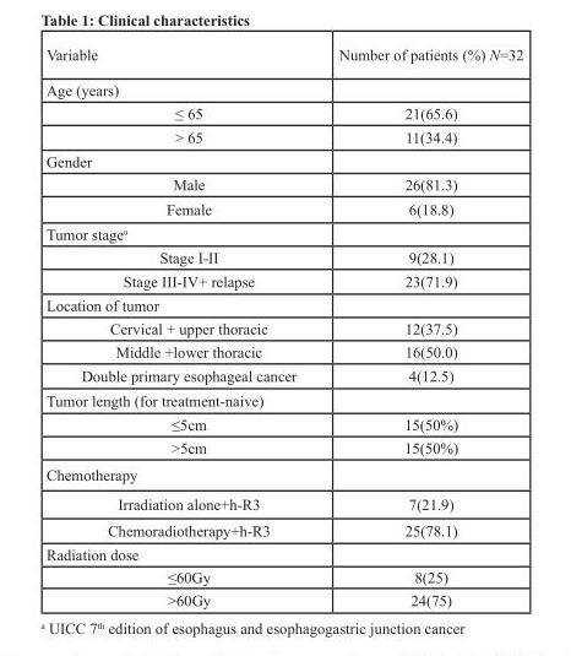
<table><thead><tr><td>Variable</td><td>Number of patients (%) N=32</td></tr></thead><tbody><tr><td colspan="2">Age (years)</td></tr><tr><td>≤ 65</td><td>21(65.6)</td></tr><tr><td>&gt; 65</td><td>11(34.4)</td></tr><tr><td colspan="2">Gender</td></tr><tr><td>Male</td><td>26(81.3)</td></tr><tr><td>Female</td><td>6(18.8)</td></tr><tr><td colspan="2">Tumor stage<sup>a</sup></td></tr><tr><td>Stage I-II</td><td>9(28.1)</td></tr><tr><td>Stage III-IV+ relapse</td><td>23(71.9)</td></tr><tr><td colspan="2">Location of tumor</td></tr><tr><td>Cervical + upper thoracic</td><td>12(37.5)</td></tr><tr><td>Middle +lower thoracic</td><td>16(50.0)</td></tr><tr><td>Double primary esophageal cancer</td><td>4(12.5)</td></tr><tr><td colspan="2">Tumor length (for treatment-naive)</td></tr><tr><td>≤5cm</td><td>15(50%)</td></tr><tr><td>&gt;5cm</td><td>15(50%)</td></tr><tr><td colspan="2">Chemotherapy</td></tr><tr><td>Irradiation alone+h-R3</td><td>7(21.9)</td></tr><tr><td>Chemoradiotherapy+h-R3</td><td>25(78.1)</td></tr><tr><td colspan="2">Radiation dose</td></tr><tr><td>≤60Gy</td><td>8(25)</td></tr><tr><td>&gt;60Gy</td><td>24(75)</td></tr></tbody></table>